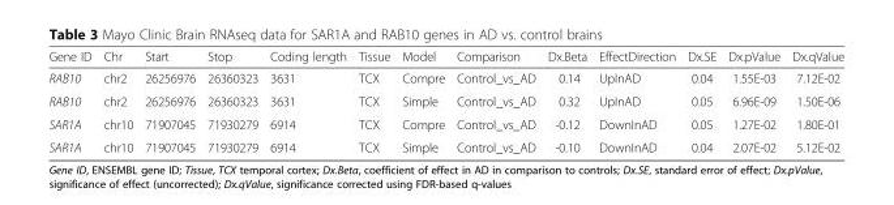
<table><thead><tr><td>Gene ID</td><td>Chr</td><td>Start</td><td>Stop</td><td>Coding length</td><td>Tissue</td><td>Model</td><td>Comparison</td><td>Dx.Beta</td><td>EffectDirection</td><td>Dx.SE</td><td>Dx.pValue</td><td>Dx.qValue</td></tr></thead><tbody><tr><td>RAB10</td><td>chr2</td><td>26256976</td><td>26360323</td><td>3631</td><td>TCX</td><td>Compre</td><td>Control_vs_AD</td><td>0.14</td><td>UpInAD</td><td>0.04</td><td>1.55E-03</td><td>7.12E-02</td></tr><tr><td>RAB10</td><td>chr2</td><td>26256976</td><td>26360323</td><td>3631</td><td>TCX</td><td>Simple</td><td>Control_vs_AD</td><td>0.32</td><td>UpInAD</td><td>0.05</td><td>6.96E-09</td><td>1.50E-06</td></tr><tr><td>SAR1A</td><td>chr10</td><td>71907045</td><td>71930279</td><td>6914</td><td>TCX</td><td>Compre</td><td>Control_vs_AD</td><td>-0.12</td><td>DownInAD</td><td>0.05</td><td>1.27E-02</td><td>1.80E-01</td></tr><tr><td>SAR1A</td><td>chr10</td><td>71907045</td><td>71930279</td><td>6914</td><td>TCX</td><td>Simple</td><td>Control_vs_AD</td><td>-0.10</td><td>DownInAD</td><td>0.04</td><td>2.07E-02</td><td>5.12E-02</td></tr></tbody></table>